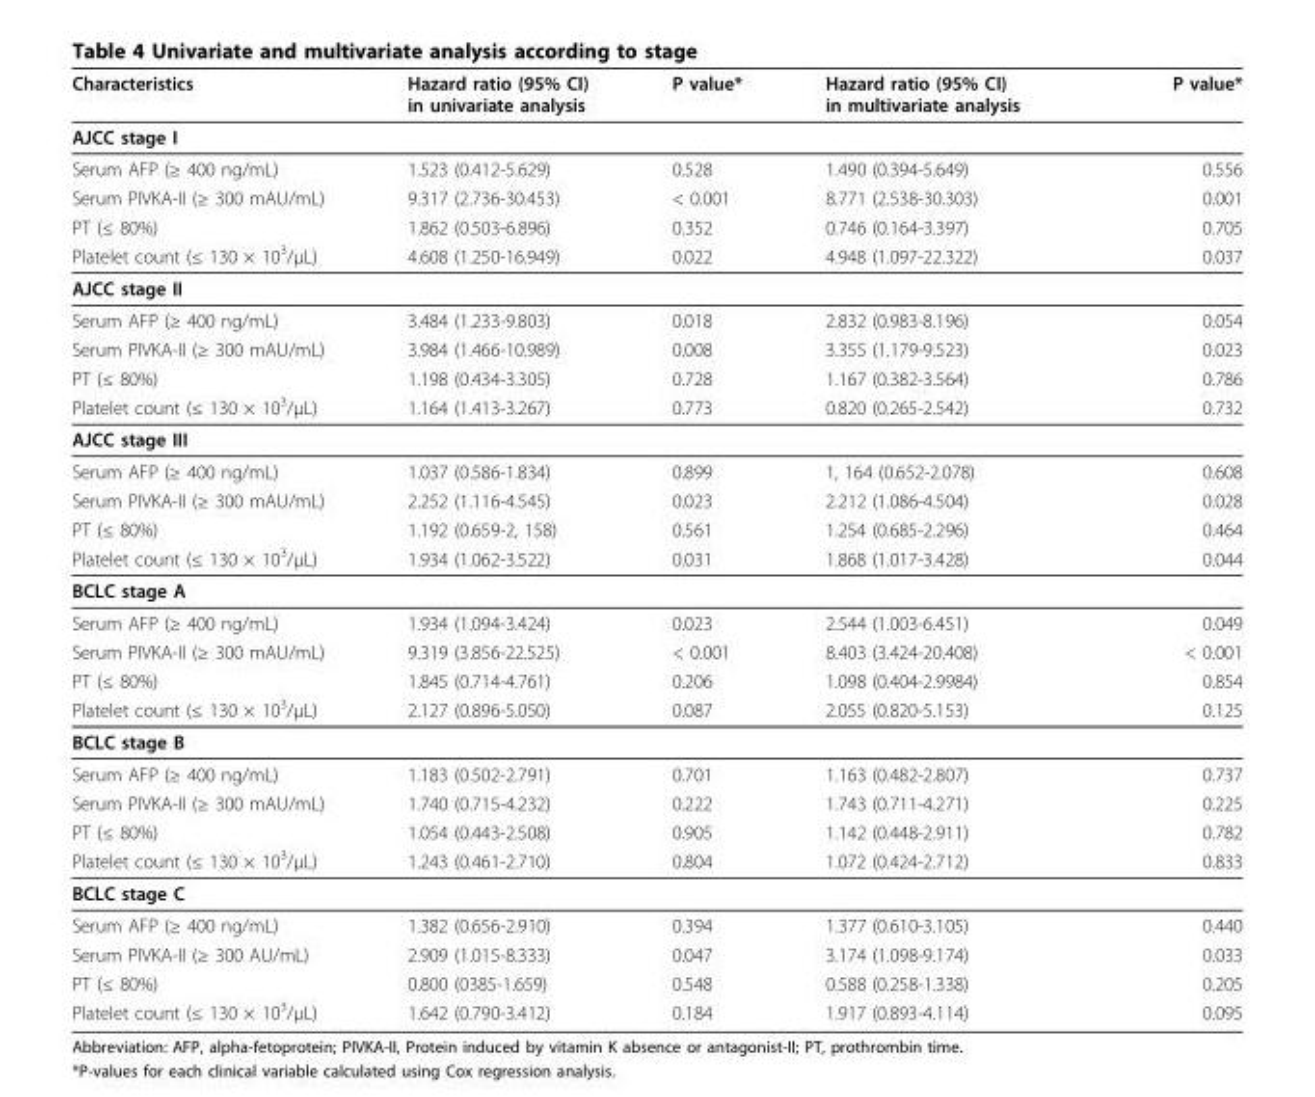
<table><thead><tr><td>Characteristics</td><td>Hazard ratio (95% CI) in univariate analysis</td><td>P value*</td><td>Hazard ratio (95% CI) in multivariate analysis</td><td>P value*</td></tr></thead><tbody><tr><td colspan="5">AJCC stage I</td></tr><tr><td>Serum AFP (≥ 400 ng/mL)</td><td>1.523 (0.412-5.629)</td><td>0.528</td><td>1.490 (0.394-5.649)</td><td>0.556</td></tr><tr><td>Serum PIVKA-II (≥ 300 mAU/mL)</td><td>9.317 (2.736-30.453)</td><td>&lt; 0.001</td><td>8.771 (2.538-30.303)</td><td>0.001</td></tr><tr><td>PT (≤ 80%)</td><td>1.862 (0.503-6.896)</td><td>0.352</td><td>0.746 (0.164-3.397)</td><td>0.705</td></tr><tr><td>Platelet count (≤ 130 × 10<sup>3</sup>/μL)</td><td>4.608 (1.250-16.949)</td><td>0.022</td><td>4.948 (1.097-22.322)</td><td>0.037</td></tr><tr><td colspan="5">AJCC stage II</td></tr><tr><td>Serum AFP (≥ 400 ng/mL)</td><td>3.484 (1.233-9.803)</td><td>0.018</td><td>2.832 (0.983-8.196)</td><td>0.054</td></tr><tr><td>Serum PIVKA-II (≥ 300 mAU/mL)</td><td>3.984 (1.466-10.989)</td><td>0.008</td><td>3.355 (1.179-9.523)</td><td>0.023</td></tr><tr><td>PT (≤ 80%)</td><td>1.198 (0.434-3.305)</td><td>0.728</td><td>1.167 (0.382-3.564)</td><td>0.786</td></tr><tr><td>Platelet count (≤ 130 × 10<sup>3</sup>/μL)</td><td>1.164 (1.413-3.267)</td><td>0.773</td><td>0.820 (0.265-2.542)</td><td>0.732</td></tr><tr><td colspan="5">AJCC stage III</td></tr><tr><td>Serum AFP (≥ 400 ng/mL)</td><td>1.037 (0.586-1.834)</td><td>0.899</td><td>1, 164 (0.652-2.078)</td><td>0.608</td></tr><tr><td>Serum PIVKA-II (≥ 300 mAU/mL)</td><td>2.252 (1.116-4.545)</td><td>0.023</td><td>2.212 (1.086-4.504)</td><td>0.028</td></tr><tr><td>PT (≤ 80%)</td><td>1.192 (0.659-2, 158)</td><td>0.561</td><td>1.254 (0.685-2.296)</td><td>0.464</td></tr><tr><td>Platelet count (≤ 130 × 10<sup>3</sup>/μL)</td><td>1.934 (1.062-3.522)</td><td>0.031</td><td>1.868 (1.017-3.428)</td><td>0.044</td></tr><tr><td colspan="5">BCLC stage A</td></tr><tr><td>Serum AFP (≥ 400 ng/mL)</td><td>1.934 (1.094-3.424)</td><td>0.023</td><td>2.544 (1.003-6.451)</td><td>0.049</td></tr><tr><td>Serum PIVKA-II (≥ 300 mAU/mL)</td><td>9.319 (3.856-22.525)</td><td>&lt; 0.001</td><td>8.403 (3.424-20.408)</td><td>&lt; 0.001</td></tr><tr><td>PT (≤ 80%)</td><td>1.845 (0.714-4.761)</td><td>0.206</td><td>1.098 (0.404-2.9984)</td><td>0.854</td></tr><tr><td>Platelet count (≤ 130 × 10<sup>3</sup>/μL)</td><td>2.127 (0.896-5.050)</td><td>0.087</td><td>2.055 (0.820-5.153)</td><td>0.125</td></tr><tr><td colspan="5">BCLC stage B</td></tr><tr><td>Serum AFP (≥ 400 ng/mL)</td><td>1.183 (0.502-2.791)</td><td>0.701</td><td>1.163 (0.482-2.807)</td><td>0.737</td></tr><tr><td>Serum PIVKA-II (≥ 300 mAU/mL)</td><td>1.740 (0.715-4.232)</td><td>0.222</td><td>1.743 (0.711-4.271)</td><td>0.225</td></tr><tr><td>PT (≤ 80%)</td><td>1.054 (0.443-2.508)</td><td>0.905</td><td>1.142 (0.448-2.911)</td><td>0.782</td></tr><tr><td>Platelet count (≤ 130 × 10<sup>3</sup>/μL)</td><td>1.243 (0.461-2.710)</td><td>0.804</td><td>1.072 (0.424-2.712)</td><td>0.833</td></tr><tr><td colspan="5">BCLC stage C</td></tr><tr><td>Serum AFP (≥ 400 ng/mL)</td><td>1.382 (0.656-2.910)</td><td>0.394</td><td>1.377 (0.610-3.105)</td><td>0.440</td></tr><tr><td>Serum PIVKA-II (≥ 300 AU/mL)</td><td>2.909 (1.015-8.333)</td><td>0.047</td><td>3.174 (1.098-9.174)</td><td>0.033</td></tr><tr><td>PT (≤ 80%)</td><td>0.800 (0385-1.659)</td><td>0.548</td><td>0.588 (0.258-1.338)</td><td>0.205</td></tr><tr><td>Platelet count (≤ 130 × 10<sup>3</sup>/μL)</td><td>1.642 (0.790-3.412)</td><td>0.184</td><td>1.917 (0.893-4.114)</td><td>0.095</td></tr></tbody></table>